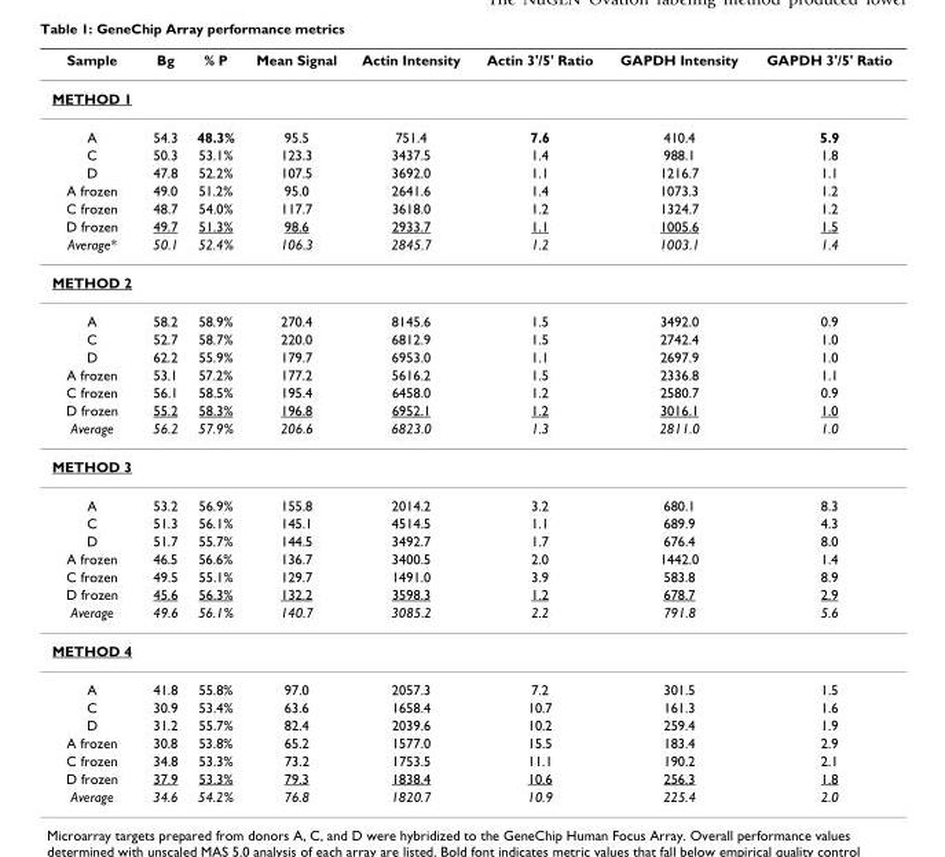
<table><thead><tr><td>Sample</td><td>Bg</td><td>% P</td><td>Mean Signal</td><td>Actin Intensity</td><td>Actin 3&#x27;/5&#x27; Ratio</td><td>GAPDH Intensity</td><td>GAPDH 3&#x27;/5&#x27; Ratio</td></tr></thead><tbody><tr><td colspan="8">METHOD 1</td></tr><tr><td>A</td><td>54.3</td><td>48.3%</td><td>95.5</td><td>751.4</td><td>7.6</td><td>410.4</td><td>5.9</td></tr><tr><td>C</td><td>50.3</td><td>53.1%</td><td>123.3</td><td>3437.5</td><td>1.4</td><td>988.1</td><td>1.8</td></tr><tr><td>D</td><td>47.8</td><td>52.2%</td><td>107.5</td><td>3692.0</td><td>1.1</td><td>1216.7</td><td>1.1</td></tr><tr><td>A frozen</td><td>49.0</td><td>51.2%</td><td>95.0</td><td>2641.6</td><td>1.4</td><td>1073.3</td><td>1.2</td></tr><tr><td>C frozen</td><td>48.7</td><td>54.0%</td><td>117.7</td><td>3618.0</td><td>1.2</td><td>1324.7</td><td>1.2</td></tr><tr><td>D frozen</td><td>49.7</td><td>51.3%</td><td>98.6</td><td>2933.7</td><td>1.1</td><td>1005.6</td><td>1.5</td></tr><tr><td>Average*</td><td>50.1</td><td>52.4%</td><td>106.3</td><td>2845.7</td><td>1.2</td><td>1003.1</td><td>1.4</td></tr><tr><td colspan="8">METHOD 2</td></tr><tr><td>A</td><td>58.2</td><td>58.9%</td><td>270.4</td><td>8145.6</td><td>1.5</td><td>3492.0</td><td>0.9</td></tr><tr><td>C</td><td>52.7</td><td>58.7%</td><td>220.0</td><td>6812.9</td><td>1.5</td><td>2742.4</td><td>1.0</td></tr><tr><td>D</td><td>62.2</td><td>55.9%</td><td>179.7</td><td>6953.0</td><td>1.1</td><td>2697.9</td><td>1.0</td></tr><tr><td>A frozen</td><td>53.1</td><td>57.2%</td><td>177.2</td><td>5616.2</td><td>1.5</td><td>2336.8</td><td>1.1</td></tr><tr><td>C frozen</td><td>56.1</td><td>58.5%</td><td>195.4</td><td>6458.0</td><td>1.2</td><td>2580.7</td><td>0.9</td></tr><tr><td>D frozen</td><td>55.2</td><td>58.3%</td><td>196.8</td><td>6952.1</td><td>1.2</td><td>3016.1</td><td>1.0</td></tr><tr><td>Average</td><td>56.2</td><td>57.9%</td><td>206.6</td><td>6823.0</td><td>1.3</td><td>2811.0</td><td>1.0</td></tr><tr><td colspan="8">METHOD 3</td></tr><tr><td>A</td><td>53.2</td><td>56.9%</td><td>155.8</td><td>2014.2</td><td>3.2</td><td>680.1</td><td>8.3</td></tr><tr><td>C</td><td>51.3</td><td>56.1%</td><td>145.1</td><td>4514.5</td><td>1.1</td><td>689.9</td><td>4.3</td></tr><tr><td>D</td><td>51.7</td><td>55.7%</td><td>144.5</td><td>3492.7</td><td>1.7</td><td>676.4</td><td>8.0</td></tr><tr><td>A frozen</td><td>46.5</td><td>56.6%</td><td>136.7</td><td>3400.5</td><td>2.0</td><td>1442.0</td><td>1.4</td></tr><tr><td>C frozen</td><td>49.5</td><td>55.1%</td><td>129.7</td><td>1491.0</td><td>3.9</td><td>583.8</td><td>8.9</td></tr><tr><td>D frozen</td><td>45.6</td><td>56.3%</td><td>132.2</td><td>3598.3</td><td>1.2</td><td>678.7</td><td>2.9</td></tr><tr><td>Average</td><td>49.6</td><td>56.1%</td><td>140.7</td><td>3085.2</td><td>2.2</td><td>791.8</td><td>5.6</td></tr><tr><td colspan="8">METHOD 4</td></tr><tr><td>A</td><td>41.8</td><td>55.8%</td><td>97.0</td><td>2057.3</td><td>7.2</td><td>301.5</td><td>1.5</td></tr><tr><td>C</td><td>30.9</td><td>53.4%</td><td>63.6</td><td>1658.4</td><td>10.7</td><td>161.3</td><td>1.6</td></tr><tr><td>D</td><td>31.2</td><td>55.7%</td><td>82.4</td><td>2039.6</td><td>10.2</td><td>259.4</td><td>1.9</td></tr><tr><td>A frozen</td><td>30.8</td><td>53.8%</td><td>65.2</td><td>1577.0</td><td>15.5</td><td>183.4</td><td>2.9</td></tr><tr><td>C frozen</td><td>34.8</td><td>53.3%</td><td>73.2</td><td>1753.5</td><td>11.1</td><td>190.2</td><td>2.1</td></tr><tr><td>D frozen</td><td>37.9</td><td>53.3%</td><td>79.3</td><td>1838.4</td><td>10.6</td><td>256.3</td><td>1.8</td></tr><tr><td>Average</td><td>34.6</td><td>54.2%</td><td>76.8</td><td>1820.7</td><td>10.9</td><td>225.4</td><td>2.0</td></tr></tbody></table>